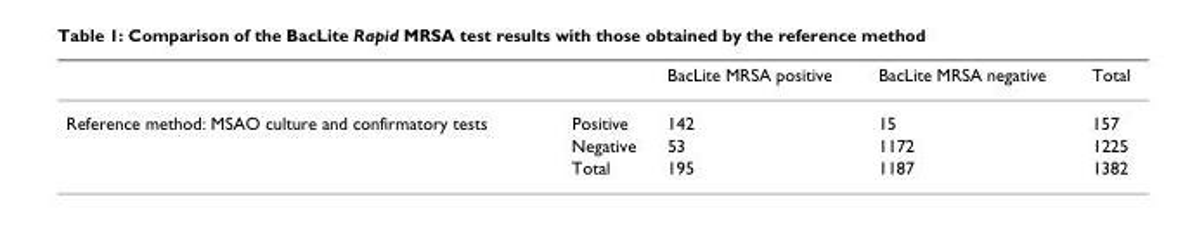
<table><thead><tr><td></td><td></td><td>BacLite MRSA positive</td><td>BacLite MRSA negative</td><td>Total</td></tr></thead><tbody><tr><td rowspan="3">Reference method: MSAO culture and confirmatory tests</td><td>Positive</td><td>142</td><td>15</td><td>157</td></tr><tr><td>Negative</td><td>53</td><td>1172</td><td>1225</td></tr><tr><td>Total</td><td>195</td><td>1187</td><td>1382</td></tr></tbody></table>